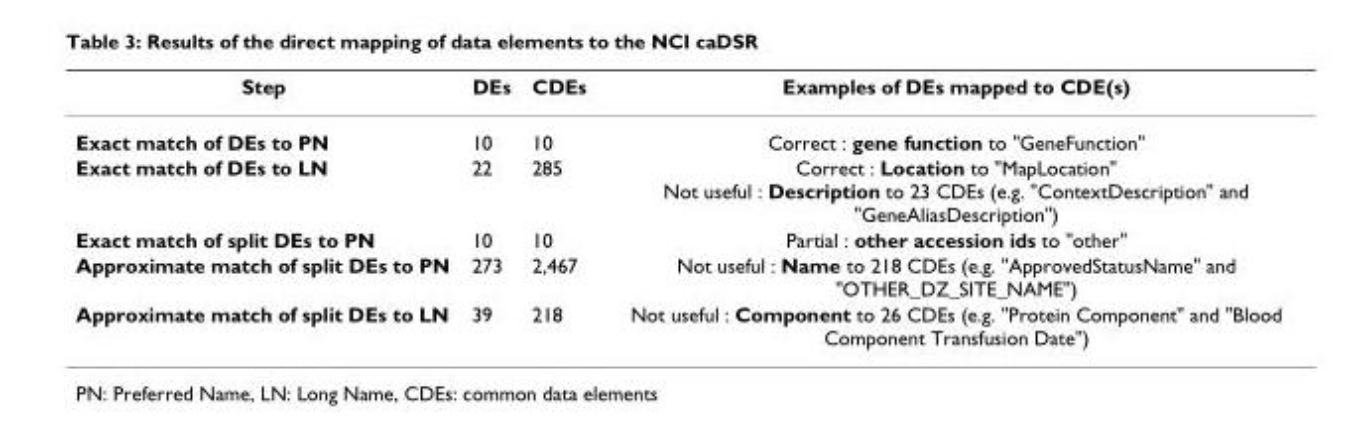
<table><thead><tr><td>Step</td><td>DEs</td><td>CDEs</td><td>Examples of DEs mapped to CDE(s)</td></tr></thead><tbody><tr><td>Exact match of DEs to PN</td><td>10</td><td>10</td><td>Correct : gene function to &quot;GeneFunction&quot;</td></tr><tr><td>Exact match of DEs to LN</td><td>22</td><td>285</td><td>Correct : Location to &quot;MapLocation&quot; Not useful : Description to 23 CDEs (e.g. &quot;ContextDescription&quot; and &quot;GeneAliasDescription&quot;)</td></tr><tr><td>Exact match of split DEs to PN</td><td>10</td><td>10</td><td>Partial : other accession ids to &quot;other&quot;</td></tr><tr><td>Approximate match of split DEs to PN</td><td>273</td><td>2,467</td><td>Not useful : Name to 218 CDEs (e.g. &quot;ApprovedStatusName&quot; and &quot;OTHER_DZ_SITE_NAME&quot;)</td></tr><tr><td>Approximate match of split DEs to LN</td><td>39</td><td>218</td><td>Not useful : Component to 26 CDEs (e.g. &quot;Protein Component&quot; and &quot;Blood Component Transfusion Date&quot;)</td></tr></tbody></table>